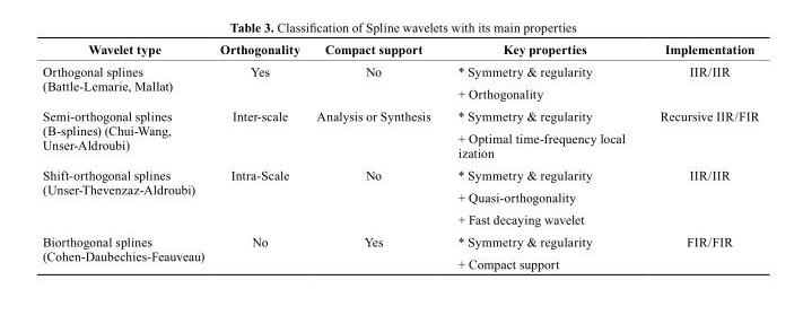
<table><thead><tr><td>Wavelet type</td><td>Orthogonality</td><td>Compact support</td><td>Key properties</td><td>Implementation</td></tr></thead><tbody><tr><td rowspan="2">Orthogonal splines (Battle-Lemarie, Mallat)</td><td rowspan="2">Yes</td><td rowspan="2">No</td><td>* Symmetry &amp; regularity</td><td>IIR/IIR</td></tr><tr><td>+ Orthogonality</td><td></td></tr><tr><td rowspan="2">Semi-orthogonal splines (B-splines) (Chui-Wang, Unser-Aldroubi)</td><td rowspan="2">Inter-scale</td><td rowspan="2">Analysis or Synthesis</td><td>* Symmetry &amp; regularity</td><td>Recursive IIR/FIR</td></tr><tr><td>+ Optimal time-frequency local ization</td><td></td></tr><tr><td rowspan="3">Shift-orthogonal splines (Unser-Thevenzaz-Aldroubi)</td><td rowspan="3">Intra-Scale</td><td rowspan="3">No</td><td>* Symmetry &amp; regularity</td><td>IIR/IIR</td></tr><tr><td>+ Quasi-orthogonality</td><td></td></tr><tr><td>+ Fast decaying wavelet</td><td></td></tr><tr><td rowspan="2">Biorthogonal splines (Cohen-Daubechies-Feauveau)</td><td rowspan="2">No</td><td rowspan="2">Yes</td><td>* Symmetry &amp; regularity</td><td>FIR/FIR</td></tr><tr><td>+ Compact support</td><td></td></tr></tbody></table>